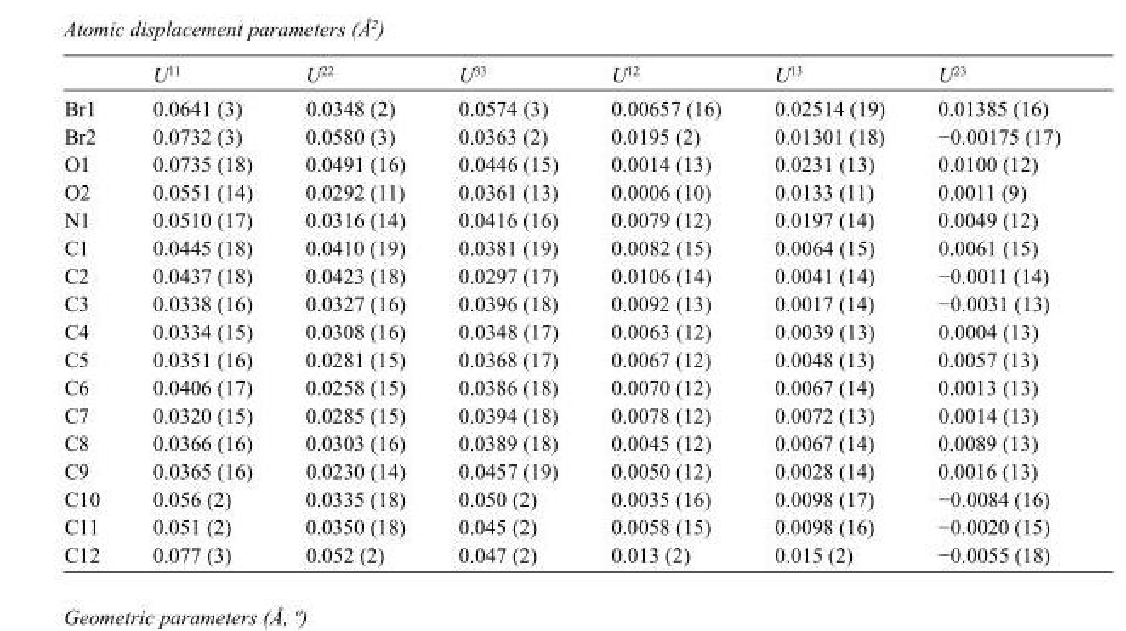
<table><thead><tr><td></td><td>U<sup>11</sup></td><td>U<sup>22</sup></td><td>U<sup>33</sup></td><td>U<sup>12</sup></td><td>U<sup>13</sup></td><td>U<sup>23</sup></td></tr></thead><tbody><tr><td>Br1</td><td>0.0641 (3)</td><td>0.0348 (2)</td><td>0.0574 (3)</td><td>0.00657 (16)</td><td>0.02514 (19)</td><td>0.01385 (16)</td></tr><tr><td>Br2</td><td>0.0732 (3)</td><td>0.0580 (3)</td><td>0.0363 (2)</td><td>0.0195 (2)</td><td>0.01301 (18)</td><td>−0.00175 (17)</td></tr><tr><td>O1</td><td>0.0735 (18)</td><td>0.0491 (16)</td><td>0.0446 (15)</td><td>0.0014 (13)</td><td>0.0231 (13)</td><td>0.0100 (12)</td></tr><tr><td>O2</td><td>0.0551 (14)</td><td>0.0292 (11)</td><td>0.0361 (13)</td><td>0.0006 (10)</td><td>0.0133 (11)</td><td>0.0011 (9)</td></tr><tr><td>N1</td><td>0.0510 (17)</td><td>0.0316 (14)</td><td>0.0416 (16)</td><td>0.0079 (12)</td><td>0.0197 (14)</td><td>0.0049 (12)</td></tr><tr><td>C1</td><td>0.0445 (18)</td><td>0.0410 (19)</td><td>0.0381 (19)</td><td>0.0082 (15)</td><td>0.0064 (15)</td><td>0.0061 (15)</td></tr><tr><td>C2</td><td>0.0437 (18)</td><td>0.0423 (18)</td><td>0.0297 (17)</td><td>0.0106 (14)</td><td>0.0041 (14)</td><td>−0.0011 (14)</td></tr><tr><td>C3</td><td>0.0338 (16)</td><td>0.0327 (16)</td><td>0.0396 (18)</td><td>0.0092 (13)</td><td>0.0017 (14)</td><td>−0.0031 (13)</td></tr><tr><td>C4</td><td>0.0334 (15)</td><td>0.0308 (16)</td><td>0.0348 (17)</td><td>0.0063 (12)</td><td>0.0039 (13)</td><td>0.0004 (13)</td></tr><tr><td>C5</td><td>0.0351 (16)</td><td>0.0281 (15)</td><td>0.0368 (17)</td><td>0.0067 (12)</td><td>0.0048 (13)</td><td>0.0057 (13)</td></tr><tr><td>C6</td><td>0.0406 (17)</td><td>0.0258 (15)</td><td>0.0386 (18)</td><td>0.0070 (12)</td><td>0.0067 (14)</td><td>0.0013 (13)</td></tr><tr><td>C7</td><td>0.0320 (15)</td><td>0.0285 (15)</td><td>0.0394 (18)</td><td>0.0078 (12)</td><td>0.0072 (13)</td><td>0.0014 (13)</td></tr><tr><td>C8</td><td>0.0366 (16)</td><td>0.0303 (16)</td><td>0.0389 (18)</td><td>0.0045 (12)</td><td>0.0067 (14)</td><td>0.0089 (13)</td></tr><tr><td>C9</td><td>0.0365 (16)</td><td>0.0230 (14)</td><td>0.0457 (19)</td><td>0.0050 (12)</td><td>0.0028 (14)</td><td>0.0016 (13)</td></tr><tr><td>C10</td><td>0.056 (2)</td><td>0.0335 (18)</td><td>0.050 (2)</td><td>0.0035 (16)</td><td>0.0098 (17)</td><td>−0.0084 (16)</td></tr><tr><td>C11</td><td>0.051 (2)</td><td>0.0350 (18)</td><td>0.045 (2)</td><td>0.0058 (15)</td><td>0.0098 (16)</td><td>−0.0020 (15)</td></tr><tr><td>C12</td><td>0.077 (3)</td><td>0.052 (2)</td><td>0.047 (2)</td><td>0.013 (2)</td><td>0.015 (2)</td><td>−0.0055 (18)</td></tr></tbody></table>